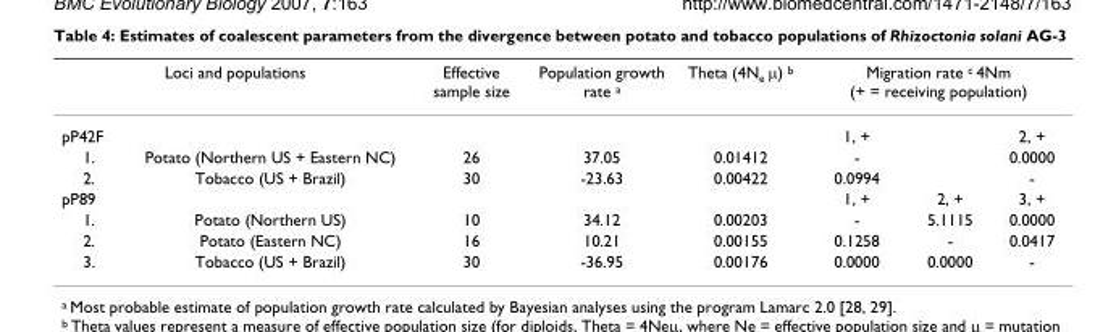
<table><thead><tr><td colspan="2">Loci and populations</td><td rowspan="2">Effective sample size</td><td rowspan="2">Population growth rate <sup>a</sup></td><td rowspan="2">Theta (4N<sub>e</sub> µ) <sup>b</sup></td><td colspan="3">Migration rate <sup>c</sup> 4Nm (+ = receiving population)</td></tr><tr><td>pP42F</td><td></td><td>1, +</td><td></td><td>2, +</td></tr></thead><tbody><tr><td>1.</td><td>Potato (Northern US + Eastern NC)</td><td>26</td><td>37.05</td><td>0.01412</td><td>-</td><td></td><td>0.0000</td></tr><tr><td>2.</td><td>Tobacco (US + Brazil)</td><td>30</td><td>-23.63</td><td>0.00422</td><td>0.0994</td><td></td><td>-</td></tr><tr><td>pP89</td><td></td><td></td><td></td><td></td><td>1, +</td><td>2, +</td><td>3, +</td></tr><tr><td>1.</td><td>Potato (Northern US)</td><td>10</td><td>34.12</td><td>0.00203</td><td>-</td><td>5.1115</td><td>0.0000</td></tr><tr><td>2.</td><td>Potato (Eastern NC)</td><td>16</td><td>10.21</td><td>0.00155</td><td>0.1258</td><td>-</td><td>0.0417</td></tr><tr><td>3.</td><td>Tobacco (US + Brazil)</td><td>30</td><td>-36.95</td><td>0.00176</td><td>0.0000</td><td>0.0000</td><td>-</td></tr></tbody></table>